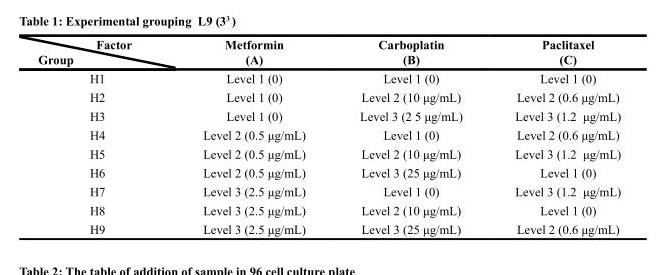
<table><thead><tr><td>Factor Group</td><td>Metformin (A)</td><td>Carboplatin (B)</td><td>Paclitaxel (C)</td></tr></thead><tbody><tr><td>H1</td><td>Level 1 (0)</td><td>Level 1 (0)</td><td>Level 1 (0)</td></tr><tr><td>H2</td><td>Level 1 (0)</td><td>Level 2 (10 μg/mL)</td><td>Level 2 (0.6 μg/mL)</td></tr><tr><td>H3</td><td>Level 1 (0)</td><td>Level 3 (2 5 μg/mL)</td><td>Level 3 (1.2 μg/mL)</td></tr><tr><td>H4</td><td>Level 2 (0.5 μg/mL)</td><td>Level 1 (0)</td><td>Level 2 (0.6 μg/mL)</td></tr><tr><td>H5</td><td>Level 2 (0.5 μg/mL)</td><td>Level 2 (10 μg/mL)</td><td>Level 3 (1.2 μg/mL)</td></tr><tr><td>H6</td><td>Level 2 (0.5 μg/mL)</td><td>Level 3 (25 μg/mL)</td><td>Level 1 (0)</td></tr><tr><td>H7</td><td>Level 3 (2.5 μg/mL)</td><td>Level 1 (0)</td><td>Level 3 (1.2 μg/mL)</td></tr><tr><td>H8</td><td>Level 3 (2.5 μg/mL)</td><td>Level 2 (10 μg/mL)</td><td>Level 1 (0)</td></tr><tr><td>H9</td><td>Level 3 (2.5 μg/mL)</td><td>Level 3 (25 μg/mL)</td><td>Level 2 (0.6 μg/mL)</td></tr></tbody></table>